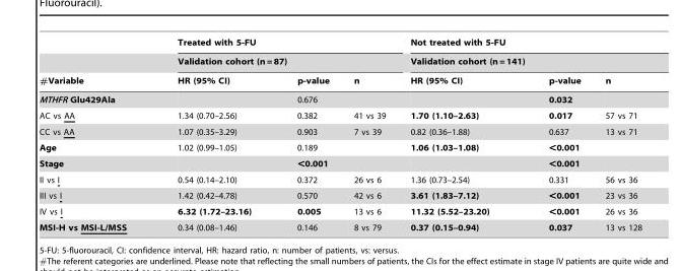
<table><thead><tr><td rowspan="3">#Variable</td><td rowspan="2" colspan="3">Treated with 5-FU Validation cohort (n = 87)</td><td rowspan="2" colspan="3">Not treated with 5-FU Validation cohort (n = 141)</td></tr><tr></tr><tr><td>HR (95% CI)</td><td>p-value</td><td>n</td><td>HR (95% CI)</td><td>p-value</td><td>n</td></tr></thead><tbody><tr><td>MTHFR Glu429Ala</td><td></td><td>0.676</td><td></td><td></td><td>0.032</td><td></td></tr><tr><td>AC vs AA</td><td>1.34 (0.70–2.56)</td><td>0.382</td><td>41 vs 39</td><td>1.70 (1.10–2.63)</td><td>0.017</td><td>57 vs 71</td></tr><tr><td>CC vs AA</td><td>1.07 (0.35–3.29)</td><td>0.903</td><td>7 vs 39</td><td>0.82 (0.36–1.88)</td><td>0.637</td><td>13 vs 71</td></tr><tr><td>Age</td><td>1.02 (0.99–1.05)</td><td>0.189</td><td></td><td>1.06 (1.03–1.08)</td><td>&lt;0.001</td><td></td></tr><tr><td>Stage</td><td></td><td>&lt;0.001</td><td></td><td></td><td>&lt;0.001</td><td></td></tr><tr><td>II vs I</td><td>0.54 (0.14–2.10)</td><td>0.372</td><td>26 vs 6</td><td>1.36 (0.73–2.54)</td><td>0.331</td><td>56 vs 36</td></tr><tr><td>III vs I</td><td>1.42 (0.42–4.78)</td><td>0.570</td><td>42 vs 6</td><td>3.61 (1.83–7.12)</td><td>&lt;0.001</td><td>23 vs 36</td></tr><tr><td>IV vs I</td><td>6.32 (1.72–23.16)</td><td>0.005</td><td>13 vs 6</td><td>11.32 (5.52–23.20)</td><td>&lt;0.001</td><td>26 vs 36</td></tr><tr><td>MSI-H vs MSI-L/MSS</td><td>0.34 (0.08–1.46)</td><td>0.146</td><td>8 vs 79</td><td>0.37 (0.15–0.94)</td><td>0.037</td><td>13 vs 128</td></tr></tbody></table>